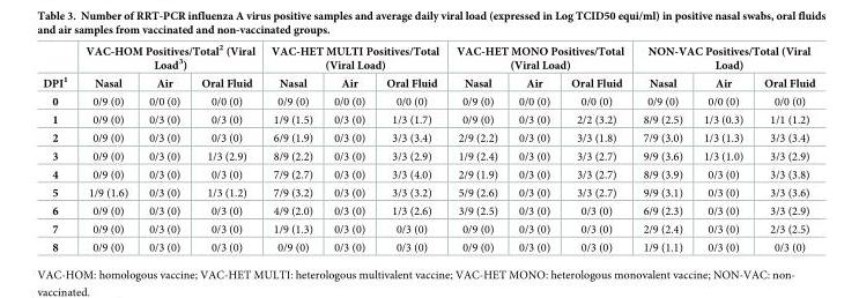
<table><thead><tr><td rowspan="2">DPI<sup>1</sup></td><td colspan="3">VAC-HOM Positives/Total<sup>2</sup> (Viral Load<sup>3</sup>)</td><td colspan="3">VAC-HET MULTI Positives/Total (Viral Load)</td><td colspan="3">VAC-HET MONO Positives/Total (Viral Load)</td><td colspan="3">NON-VAC Positives/Total (Viral Load)</td></tr><tr><td>Nasal</td><td>Air</td><td>Oral Fluid</td><td>Nasal</td><td>Air</td><td>Oral Fluid</td><td>Nasal</td><td>Air</td><td>Oral Fluid</td><td>Nasal</td><td>Air</td><td>Oral Fluid</td></tr></thead><tbody><tr><td>0</td><td>0/9 (0)</td><td>0/0 (0)</td><td>0/0 (0)</td><td>0/9 (0)</td><td>0/0 (0)</td><td>0/0 (0)</td><td>0/9 (0)</td><td>0/0 (0)</td><td>0/0 (0)</td><td>0/9 (0)</td><td>0/0 (0)</td><td>0/0 (0)</td></tr><tr><td>1</td><td>0/9 (0)</td><td>0/3 (0)</td><td>0/3 (0)</td><td>1/9 (1.5)</td><td>0/3 (0)</td><td>1/3 (1.7)</td><td>0/9 (0)</td><td>0/3 (0)</td><td>2/2 (3.2)</td><td>8/9 (2.5)</td><td>1/3 (0.3)</td><td>1/1 (1.2)</td></tr><tr><td>2</td><td>0/9 (0)</td><td>0/3 (0)</td><td>0/3 (0)</td><td>6/9 (1.9)</td><td>0/3 (0)</td><td>3/3 (3.4)</td><td>2/9 (2.2)</td><td>0/3 (0)</td><td>3/3 (1.8)</td><td>7/9 (3.0)</td><td>1/3 (1.3)</td><td>3/3 (3.4)</td></tr><tr><td>3</td><td>0/9 (0)</td><td>0/3 (0)</td><td>1/3 (2.9)</td><td>8/9 (2.2)</td><td>0/3 (0)</td><td>3/3 (2.9)</td><td>1/9 (2.4)</td><td>0/3 (0)</td><td>3/3 (2.7)</td><td>9/9 (3.6)</td><td>1/3 (1.0)</td><td>3/3 (2.9)</td></tr><tr><td>4</td><td>0/9 (0)</td><td>0/3 (0)</td><td>0/3 (0)</td><td>7/9 (2.7)</td><td>0/3 (0)</td><td>3/3 (4.0)</td><td>2/9 (1.9)</td><td>0/3 (0)</td><td>3/3 (2.7)</td><td>8/9 (3.9)</td><td>0/3 (0)</td><td>3/3 (3.8)</td></tr><tr><td>5</td><td>1/9 (1.6)</td><td>0/3 (0)</td><td>1/3 (1.2)</td><td>7/9 (3.2)</td><td>0/3 (0)</td><td>3/3 (3.2)</td><td>5/9 (2.6)</td><td>0/3 (0)</td><td>3/3 (2.7)</td><td>9/9 (3.1)</td><td>0/3 (0)</td><td>3/3 (3.6)</td></tr><tr><td>6</td><td>0/9 (0)</td><td>0/3 (0)</td><td>0/3 (0)</td><td>4/9 (2.0)</td><td>0/3 (0)</td><td>1/3 (2.6)</td><td>3/9 (2.5)</td><td>0/3 (0)</td><td>0/3 (0)</td><td>6/9 (2.3)</td><td>0/3 (0)</td><td>3/3 (2.9)</td></tr><tr><td>7</td><td>0/9 (0)</td><td>0/3 (0)</td><td>0/3 (0)</td><td>1/9 (1.3)</td><td>0/3 (0)</td><td>0/3 (0)</td><td>0/9 (0)</td><td>0/3 (0)</td><td>0/3 (0)</td><td>2/9 (2.4)</td><td>0/3 (0)</td><td>2/3 (2.5)</td></tr><tr><td>8</td><td>0/9 (0)</td><td>0/3 (0)</td><td>0/3 (0)</td><td>0/9 (0)</td><td>0/3 (0)</td><td>0/3 (0)</td><td>0/9 (0)</td><td>0/3 (0)</td><td>0/3 (0)</td><td>1/9 (1.1)</td><td>0/3 (0)</td><td>0/3 (0)</td></tr></tbody></table>